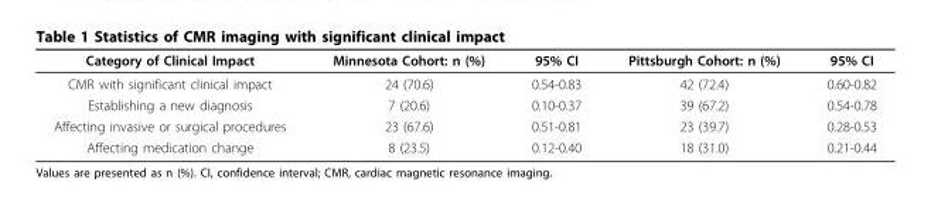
<table><thead><tr><td>Category of Clinical Impact</td><td>Minnesota Cohort: n (%)</td><td>95% CI</td><td>Pittsburgh Cohort: n (%)</td><td>95% CI</td></tr></thead><tbody><tr><td>CMR with significant clinical impact</td><td>24 (70.6)</td><td>0.54-0.83</td><td>42 (72.4)</td><td>0.60-0.82</td></tr><tr><td>Establishing a new diagnosis</td><td>7 (20.6)</td><td>0.10-0.37</td><td>39 (67.2)</td><td>0.54-0.78</td></tr><tr><td>Affecting invasive or surgical procedures</td><td>23 (67.6)</td><td>0.51-0.81</td><td>23 (39.7)</td><td>0.28-0.53</td></tr><tr><td>Affecting medication change</td><td>8 (23.5)</td><td>0.12-0.40</td><td>18 (31.0)</td><td>0.21-0.44</td></tr></tbody></table>